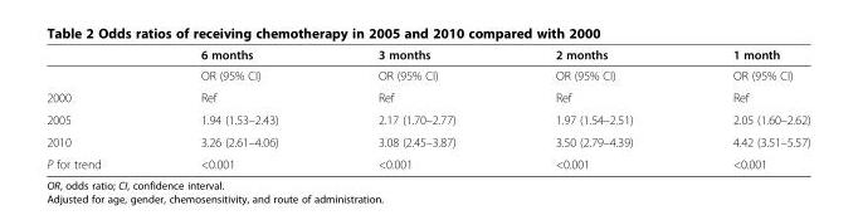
<table><thead><tr><td></td><td>6 months</td><td>3 months</td><td>2 months</td><td>1 month</td></tr></thead><tbody><tr><td></td><td>OR (95% CI)</td><td>OR (95% CI)</td><td>OR (95% CI)</td><td>OR (95% CI)</td></tr><tr><td>2000</td><td>Ref</td><td>Ref</td><td>Ref</td><td>Ref</td></tr><tr><td>2005</td><td>1.94 (1.53–2.43)</td><td>2.17 (1.70–2.77)</td><td>1.97 (1.54–2.51)</td><td>2.05 (1.60–2.62)</td></tr><tr><td>2010</td><td>3.26 (2.61–4.06)</td><td>3.08 (2.45–3.87)</td><td>3.50 (2.79–4.39)</td><td>4.42 (3.51–5.57)</td></tr><tr><td>P for trend</td><td>&lt;0.001</td><td>&lt;0.001</td><td>&lt;0.001</td><td>&lt;0.001</td></tr></tbody></table>